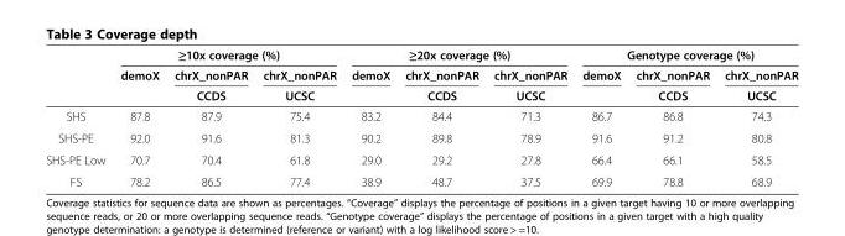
<table><thead><tr><td rowspan="3"></td><td colspan="3">≥10x coverage (%)</td><td colspan="3">≥20x coverage (%)</td><td colspan="3">Genotype coverage (%)</td></tr><tr><td rowspan="2">demoX</td><td rowspan="2">chrX_nonPAR CCDS</td><td rowspan="2">chrX_nonPAR UCSC</td><td rowspan="2">demoX</td><td rowspan="2">chrX_nonPAR CCDS</td><td rowspan="2">chrX_nonPAR UCSC</td><td rowspan="2">demoX</td><td rowspan="2">chrX_nonPAR CCDS</td><td rowspan="2">chrX_nonPAR UCSC</td></tr><tr></tr></thead><tbody><tr><td>SHS</td><td>87.8</td><td>87.9</td><td>75.4</td><td>83.2</td><td>84.4</td><td>71.3</td><td>86.7</td><td>86.8</td><td>74.3</td></tr><tr><td>SHS-PE</td><td>92.0</td><td>91.6</td><td>81.3</td><td>90.2</td><td>89.8</td><td>78.9</td><td>91.6</td><td>91.2</td><td>80.8</td></tr><tr><td>SHS-PE Low</td><td>70.7</td><td>70.4</td><td>61.8</td><td>29.0</td><td>29.2</td><td>27.8</td><td>66.4</td><td>66.1</td><td>58.5</td></tr><tr><td>FS</td><td>78.2</td><td>86.5</td><td>77.4</td><td>38.9</td><td>48.7</td><td>37.5</td><td>69.9</td><td>78.8</td><td>68.9</td></tr></tbody></table>